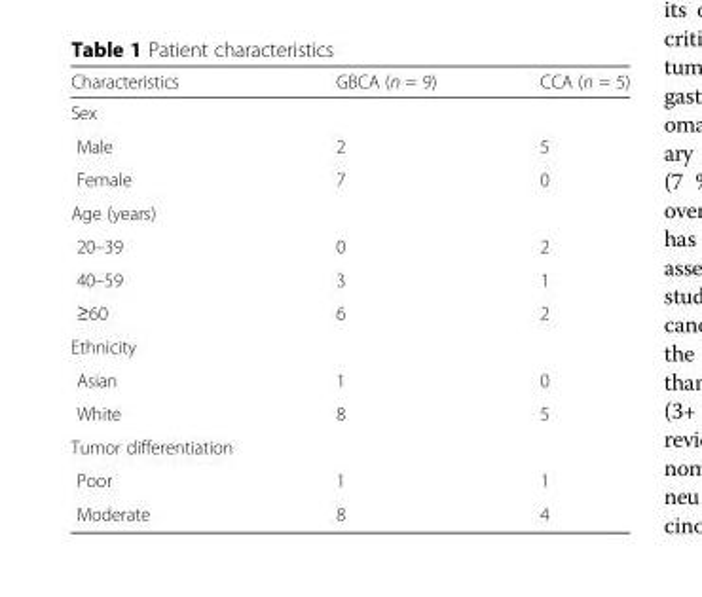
<table><thead><tr><td>Characteristics</td><td>GBCA (n = 9)</td><td>CCA (n = 5)</td></tr></thead><tbody><tr><td colspan="3">Sex</td></tr><tr><td>Male</td><td>2</td><td>5</td></tr><tr><td>Female</td><td>7</td><td>0</td></tr><tr><td colspan="3">Age (years)</td></tr><tr><td>20–39</td><td>0</td><td>2</td></tr><tr><td>40–59</td><td>3</td><td>1</td></tr><tr><td>≥60</td><td>6</td><td>2</td></tr><tr><td colspan="3">Ethnicity</td></tr><tr><td>Asian</td><td>1</td><td>0</td></tr><tr><td>White</td><td>8</td><td>5</td></tr><tr><td colspan="3">Tumor differentiation</td></tr><tr><td>Poor</td><td>1</td><td>1</td></tr><tr><td>Moderate</td><td>8</td><td>4</td></tr></tbody></table>